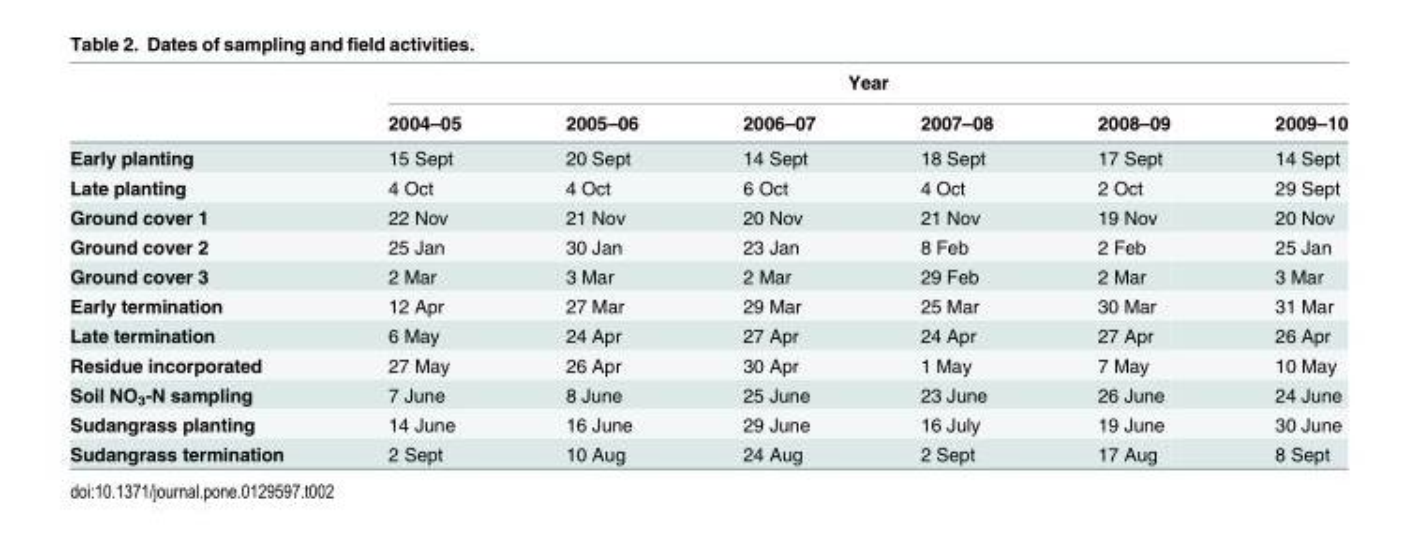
<table><thead><tr><td rowspan="2"></td><td colspan="6">Year</td></tr><tr><td>2004–05</td><td>2005–06</td><td>2006–07</td><td>2007–08</td><td>2008–09</td><td>2009–10</td></tr></thead><tbody><tr><td>Early planting</td><td>15 Sept</td><td>20 Sept</td><td>14 Sept</td><td>18 Sept</td><td>17 Sept</td><td>14 Sept</td></tr><tr><td>Late planting</td><td>4 Oct</td><td>4 Oct</td><td>6 Oct</td><td>4 Oct</td><td>2 Oct</td><td>29 Sept</td></tr><tr><td>Ground cover 1</td><td>22 Nov</td><td>21 Nov</td><td>20 Nov</td><td>21 Nov</td><td>19 Nov</td><td>20 Nov</td></tr><tr><td>Ground cover 2</td><td>25 Jan</td><td>30 Jan</td><td>23 Jan</td><td>8 Feb</td><td>2 Feb</td><td>25 Jan</td></tr><tr><td>Ground cover 3</td><td>2 Mar</td><td>3 Mar</td><td>2 Mar</td><td>29 Feb</td><td>2 Mar</td><td>3 Mar</td></tr><tr><td>Early termination</td><td>12 Apr</td><td>27 Mar</td><td>29 Mar</td><td>25 Mar</td><td>30 Mar</td><td>31 Mar</td></tr><tr><td>Late termination</td><td>6 May</td><td>24 Apr</td><td>27 Apr</td><td>24 Apr</td><td>27 Apr</td><td>26 Apr</td></tr><tr><td>Residue incorporated</td><td>27 May</td><td>26 Apr</td><td>30 Apr</td><td>1 May</td><td>7 May</td><td>10 May</td></tr><tr><td>Soil NO<sub>3</sub>-N sampling</td><td>7 June</td><td>8 June</td><td>25 June</td><td>23 June</td><td>26 June</td><td>24 June</td></tr><tr><td>Sudangrass planting</td><td>14 June</td><td>16 June</td><td>29 June</td><td>16 July</td><td>19 June</td><td>30 June</td></tr><tr><td>Sudangrass termination</td><td>2 Sept</td><td>10 Aug</td><td>24 Aug</td><td>2 Sept</td><td>17 Aug</td><td>8 Sept</td></tr></tbody></table>